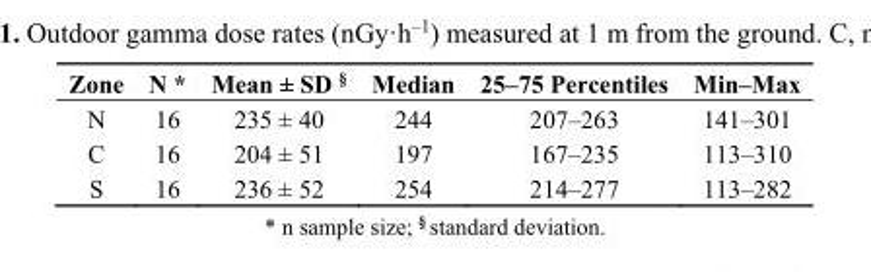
<table><thead><tr><td>Zone</td><td>N *</td><td>Mean ± SD <sup>§</sup></td><td>Median</td><td>25–75 Percentiles</td><td>Min–Max</td></tr></thead><tbody><tr><td>N</td><td>16</td><td>235 ± 40</td><td>244</td><td>207–263</td><td>141–301</td></tr><tr><td>C</td><td>16</td><td>204 ± 51</td><td>197</td><td>167–235</td><td>113–310</td></tr><tr><td>S</td><td>16</td><td>236 ± 52</td><td>254</td><td>214–277</td><td>113–282</td></tr></tbody></table>